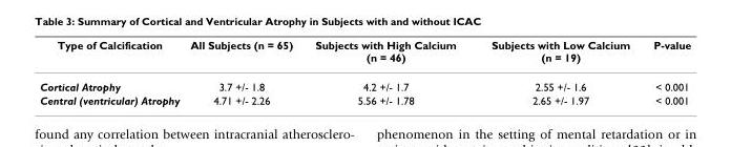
<table><thead><tr><td>Type of Calcification</td><td>All Subjects (n = 65)</td><td>Subjects with High Calcium (n = 46)</td><td>Subjects with Low Calcium (n = 19)</td><td>P-value</td></tr></thead><tbody><tr><td>Cortical Atrophy</td><td>3.7 +/- 1.8</td><td>4.2 +/- 1.7</td><td>2.55 +/- 1.6</td><td>&lt; 0.001</td></tr><tr><td>Central (ventricular) Atrophy</td><td>4.71 +/- 2.26</td><td>5.56 +/- 1.78</td><td>2.65 +/- 1.97</td><td>&lt; 0.001</td></tr></tbody></table>